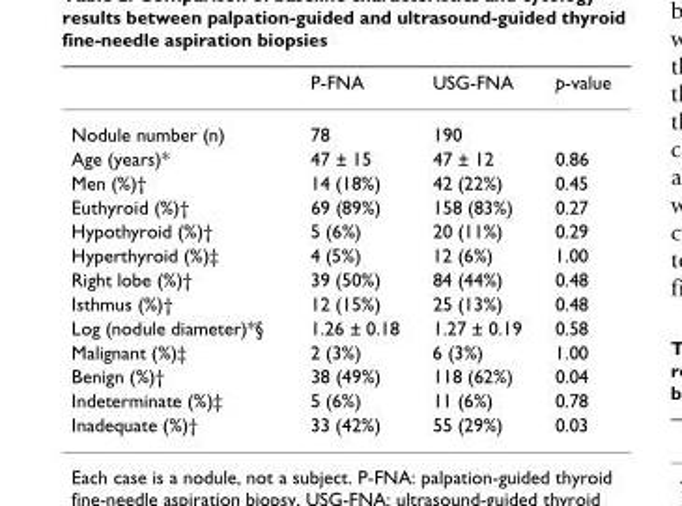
<table><thead><tr><td></td><td>P-FNA</td><td>USG-FNA</td><td>p-value</td></tr></thead><tbody><tr><td>Nodule number (n)</td><td>78</td><td>190</td><td></td></tr><tr><td>Age (years)*</td><td>47 ± 15</td><td>47 ± 12</td><td>0.86</td></tr><tr><td>Men (%)†</td><td>14 (18%)</td><td>42 (22%)</td><td>0.45</td></tr><tr><td>Euthyroid (%)†</td><td>69 (89%)</td><td>158 (83%)</td><td>0.27</td></tr><tr><td>Hypothyroid (%)†</td><td>5 (6%)</td><td>20 (11%)</td><td>0.29</td></tr><tr><td>Hyperthyroid (%)‡</td><td>4 (5%)</td><td>12 (6%)</td><td>1.00</td></tr><tr><td>Right lobe (%)†</td><td>39 (50%)</td><td>84 (44%)</td><td>0.48</td></tr><tr><td>Isthmus (%)†</td><td>12 (15%)</td><td>25 (13%)</td><td>0.48</td></tr><tr><td>Log (nodule diameter)*§</td><td>1.26 ± 0.18</td><td>1.27 ± 0.19</td><td>0.58</td></tr><tr><td>Malignant (%)‡</td><td>2 (3%)</td><td>6 (3%)</td><td>1.00</td></tr><tr><td>Benign (%)†</td><td>38 (49%)</td><td>118 (62%)</td><td>0.04</td></tr><tr><td>Indeterminate (%)‡</td><td>5 (6%)</td><td>11 (6%)</td><td>0.78</td></tr><tr><td>Inadequate (%)†</td><td>33 (42%)</td><td>55 (29%)</td><td>0.03</td></tr></tbody></table>